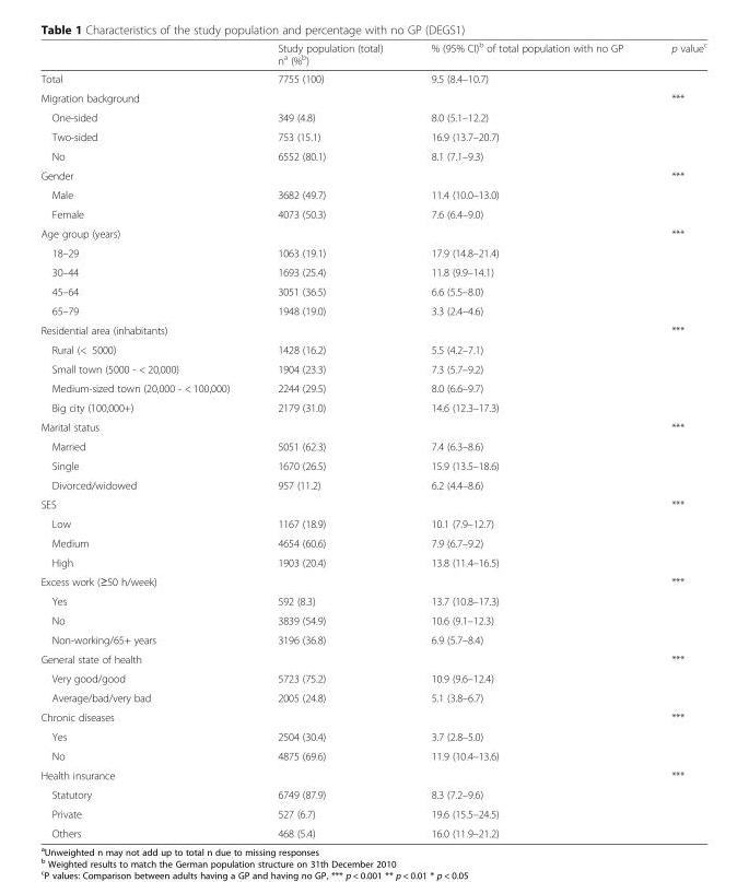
<table><thead><tr><td></td><td>Study population (total) n<sup>a</sup> (%<sup>b</sup>)</td><td>% (95% CI)<sup>b</sup> of total population with no GP</td><td>p value<sup>c</sup></td></tr></thead><tbody><tr><td>Total</td><td>7755 (100)</td><td>9.5 (8.4–10.7)</td><td></td></tr><tr><td colspan="3">Migration background</td><td>***</td></tr><tr><td>One-sided</td><td>349 (4.8)</td><td>8.0 (5.1–12.2)</td><td></td></tr><tr><td>Two-sided</td><td>753 (15.1)</td><td>16.9 (13.7–20.7)</td><td></td></tr><tr><td>No</td><td>6552 (80.1)</td><td>8.1 (7.1–9.3)</td><td></td></tr><tr><td colspan="3">Gender</td><td>***</td></tr><tr><td>Male</td><td>3682 (49.7)</td><td>11.4 (10.0–13.0)</td><td></td></tr><tr><td>Female</td><td>4073 (50.3)</td><td>7.6 (6.4–9.0)</td><td></td></tr><tr><td colspan="3">Age group (years)</td><td>***</td></tr><tr><td>18–29</td><td>1063 (19.1)</td><td>17.9 (14.8–21.4)</td><td></td></tr><tr><td>30–44</td><td>1693 (25.4)</td><td>11.8 (9.9–14.1)</td><td></td></tr><tr><td>45–64</td><td>3051 (36.5)</td><td>6.6 (5.5–8.0)</td><td></td></tr><tr><td>65–79</td><td>1948 (19.0)</td><td>3.3 (2.4–4.6)</td><td></td></tr><tr><td colspan="3">Residential area (inhabitants)</td><td>***</td></tr><tr><td>Rural (&lt; 5000)</td><td>1428 (16.2)</td><td>5.5 (4.2–7.1)</td><td></td></tr><tr><td>Small town (5000 - &lt; 20,000)</td><td>1904 (23.3)</td><td>7.3 (5.7–9.2)</td><td></td></tr><tr><td>Medium-sized town (20,000 - &lt; 100,000)</td><td>2244 (29.5)</td><td>8.0 (6.6–9.7)</td><td></td></tr><tr><td>Big city (100,000+)</td><td>2179 (31.0)</td><td>14.6 (12.3–17.3)</td><td></td></tr><tr><td colspan="3">Marital status</td><td>***</td></tr><tr><td>Married</td><td>5051 (62.3)</td><td>7.4 (6.3–8.6)</td><td></td></tr><tr><td>Single</td><td>1670 (26.5)</td><td>15.9 (13.5–18.6)</td><td></td></tr><tr><td>Divorced/widowed</td><td>957 (11.2)</td><td>6.2 (4.4–8.6)</td><td></td></tr><tr><td colspan="3">SES</td><td>***</td></tr><tr><td>Low</td><td>1167 (18.9)</td><td>10.1 (7.9–12.7)</td><td></td></tr><tr><td>Medium</td><td>4654 (60.6)</td><td>7.9 (6.7–9.2)</td><td></td></tr><tr><td>High</td><td>1903 (20.4)</td><td>13.8 (11.4–16.5)</td><td></td></tr><tr><td colspan="3">Excess work (≥50 h/week)</td><td>***</td></tr><tr><td>Yes</td><td>592 (8.3)</td><td>13.7 (10.8–17.3)</td><td></td></tr><tr><td>No</td><td>3839 (54.9)</td><td>10.6 (9.1–12.3)</td><td></td></tr><tr><td>Non-working/65+ years</td><td>3196 (36.8)</td><td>6.9 (5.7–8.4)</td><td></td></tr><tr><td colspan="3">General state of health</td><td>***</td></tr><tr><td>Very good/good</td><td>5723 (75.2)</td><td>10.9 (9.6–12.4)</td><td></td></tr><tr><td>Average/bad/very bad</td><td>2005 (24.8)</td><td>5.1 (3.8–6.7)</td><td></td></tr><tr><td colspan="3">Chronic diseases</td><td>***</td></tr><tr><td>Yes</td><td>2504 (30.4)</td><td>3.7 (2.8–5.0)</td><td></td></tr><tr><td>No</td><td>4875 (69.6)</td><td>11.9 (10.4–13.6)</td><td></td></tr><tr><td colspan="3">Health insurance</td><td>***</td></tr><tr><td>Statutory</td><td>6749 (87.9)</td><td>8.3 (7.2–9.6)</td><td></td></tr><tr><td>Private</td><td>527 (6.7)</td><td>19.6 (15.5–24.5)</td><td></td></tr><tr><td>Others</td><td>468 (5.4)</td><td>16.0 (11.9–21.2)</td><td></td></tr></tbody></table>